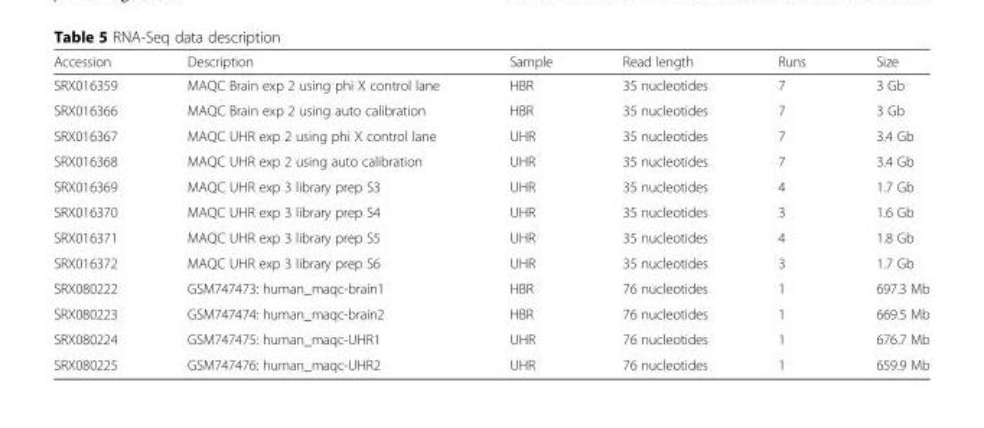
<table><thead><tr><td>Accession</td><td>Description</td><td>Sample</td><td>Read length</td><td>Runs</td><td>Size</td></tr></thead><tbody><tr><td>SRX016359</td><td>MAQC Brain exp 2 using phi X control lane</td><td>HBR</td><td>35 nucleotides</td><td>7</td><td>3 Gb</td></tr><tr><td>SRX016366</td><td>MAQC Brain exp 2 using auto calibration</td><td>HBR</td><td>35 nucleotides</td><td>7</td><td>3 Gb</td></tr><tr><td>SRX016367</td><td>MAQC UHR exp 2 using phi X control lane</td><td>UHR</td><td>35 nucleotides</td><td>7</td><td>3.4 Gb</td></tr><tr><td>SRX016368</td><td>MAQC UHR exp 2 using auto calibration</td><td>UHR</td><td>35 nucleotides</td><td>7</td><td>3.4 Gb</td></tr><tr><td>SRX016369</td><td>MAQC UHR exp 3 library prep S3</td><td>UHR</td><td>35 nucleotides</td><td>4</td><td>1.7 Gb</td></tr><tr><td>SRX016370</td><td>MAQC UHR exp 3 library prep S4</td><td>UHR</td><td>35 nucleotides</td><td>3</td><td>1.6 Gb</td></tr><tr><td>SRX016371</td><td>MAQC UHR exp 3 library prep S5</td><td>UHR</td><td>35 nucleotides</td><td>4</td><td>1.8 Gb</td></tr><tr><td>SRX016372</td><td>MAQC UHR exp 3 library prep S6</td><td>UHR</td><td>35 nucleotides</td><td>3</td><td>1.7 Gb</td></tr><tr><td>SRX080222</td><td>GSM747473: human_maqc-brain1</td><td>HBR</td><td>76 nucleotides</td><td>1</td><td>697.3 Mb</td></tr><tr><td>SRX080223</td><td>GSM747474: human_maqc-brain2</td><td>HBR</td><td>76 nucleotides</td><td>1</td><td>669.5 Mb</td></tr><tr><td>SRX080224</td><td>GSM747475: human_maqc-UHR1</td><td>UHR</td><td>76 nucleotides</td><td>1</td><td>676.7 Mb</td></tr><tr><td>SRX080225</td><td>GSM747476: human_maqc-UHR2</td><td>UHR</td><td>76 nucleotides</td><td>1</td><td>659.9 Mb</td></tr></tbody></table>